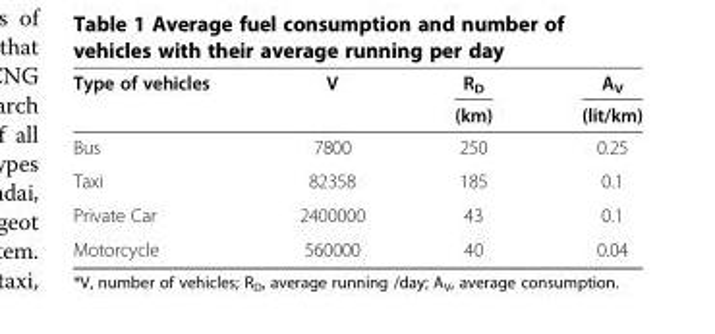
<table><thead><tr><td rowspan="2">Type of vehicles</td><td rowspan="2">V</td><td rowspan="2">R<sub>D</sub> (km)</td><td rowspan="2">A<sub>V</sub> (lit/km)</td></tr><tr></tr></thead><tbody><tr><td>Bus</td><td>7800</td><td>250</td><td>0.25</td></tr><tr><td>Taxi</td><td>82358</td><td>185</td><td>0.1</td></tr><tr><td>Private Car</td><td>2400000</td><td>43</td><td>0.1</td></tr><tr><td>Motorcycle</td><td>560000</td><td>40</td><td>0.04</td></tr></tbody></table>